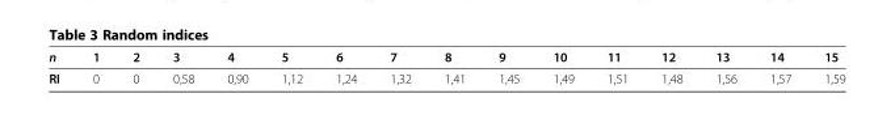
<table><thead><tr><td>n</td><td>1</td><td>2</td><td>3</td><td>4</td><td>5</td><td>6</td><td>7</td><td>8</td><td>9</td><td>10</td><td>11</td><td>12</td><td>13</td><td>14</td><td>15</td></tr></thead><tbody><tr><td>RI</td><td>0</td><td>0</td><td>0,58</td><td>0,90</td><td>1,12</td><td>1,24</td><td>1,32</td><td>1,41</td><td>1,45</td><td>1,49</td><td>1,51</td><td>1,48</td><td>1,56</td><td>1,57</td><td>1,59</td></tr></tbody></table>